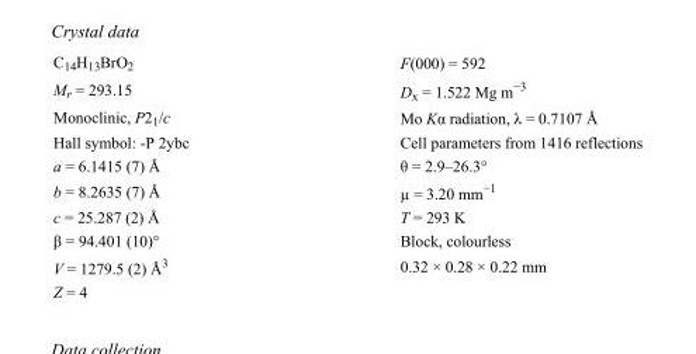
<table><tbody><tr><td>C<sub>14</sub>H<sub>13</sub>BrO<sub>2</sub></td><td>F(000) = 592</td></tr><tr><td>M<sub>r</sub> = 293.15</td><td>D<sub>x</sub> = 1.522 Mg m<sup>−3</sup></td></tr><tr><td>Monoclinic, P2<sub>1</sub>/c</td><td>Mo Kα radiation, λ = 0.7107 Å</td></tr><tr><td>Hall symbol: -P 2ybc</td><td>Cell parameters from 1416 reflections</td></tr><tr><td>a = 6.1415 (7) Å</td><td>θ = 2.9–26.3°</td></tr><tr><td>b = 8.2635 (7) Å</td><td>µ = 3.20 mm<sup>−1</sup></td></tr><tr><td>c = 25.287 (2) Å</td><td>T = 293 K</td></tr><tr><td>β = 94.401 (10)°</td><td>Block, colourless</td></tr><tr><td>V = 1279.5 (2) Å<sup>3</sup></td><td>0.32 × 0.28 × 0.22 mm</td></tr><tr><td>Z = 4</td><td></td></tr></tbody></table>